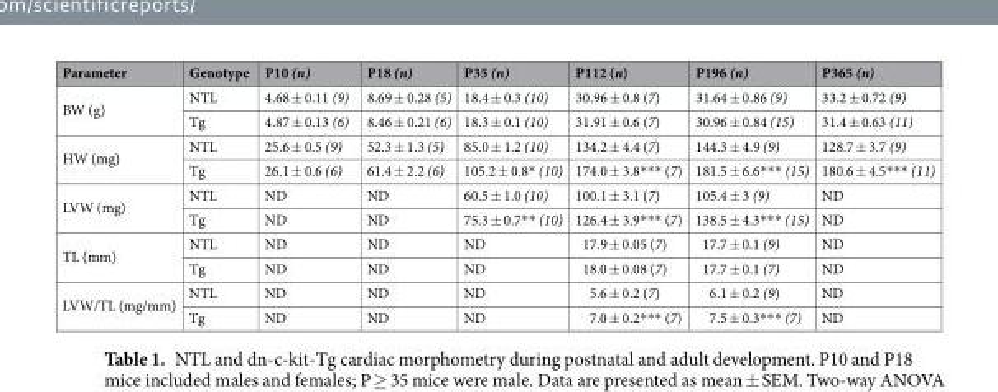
<table><thead><tr><td>Parameter</td><td>Genotype</td><td>P10 (n)</td><td>P18 (n)</td><td>P35 (n)</td><td>P112 (n)</td><td>P196 (n)</td><td>P365 (n)</td></tr></thead><tbody><tr><td rowspan="2">BW (g)</td><td>NTL</td><td>4.68 ± 0.11 (9)</td><td>8.69 ± 0.28 (5)</td><td>18.4 ± 0.3 (10)</td><td>30.96 ± 0.8 (7)</td><td>31.64 ± 0.86 (9)</td><td>33.2 ± 0.72 (9)</td></tr><tr><td>Tg</td><td>4.87 ± 0.13 (6)</td><td>8.46 ± 0.21 (6)</td><td>18.3 ± 0.1 (10)</td><td>31.91 ± 0.6 (7)</td><td>30.96 ± 0.84 (15)</td><td>31.4 ± 0.63 (11)</td></tr><tr><td rowspan="2">HW (mg)</td><td>NTL</td><td>25.6 ± 0.5 (9)</td><td>52.3 ± 1.3 (5)</td><td>85.0 ± 1.2 (10)</td><td>134.2 ± 4.4 (7)</td><td>144.3 ± 4.9 (9)</td><td>128.7 ± 3.7 (9)</td></tr><tr><td>Tg</td><td>26.1 ± 0.6 (6)</td><td>61.4 ± 2.2 (6)</td><td>105.2 ± 0.8* (10)</td><td>174.0 ± 3.8*** (7)</td><td>181.5 ± 6.6*** (15)</td><td>180.6 ± 4.5*** (11)</td></tr><tr><td rowspan="2">LVW (mg)</td><td>NTL</td><td>ND</td><td>ND</td><td>60.5 ± 1.0 (10)</td><td>100.1 ± 3.1 (7)</td><td>105.4 ± 3 (9)</td><td>ND</td></tr><tr><td>Tg</td><td>ND</td><td>ND</td><td>75.3 ± 0.7** (10)</td><td>126.4 ± 3.9*** (7)</td><td>138.5 ± 4.3*** (15)</td><td>ND</td></tr><tr><td rowspan="2">TL (mm)</td><td>NTL</td><td>ND</td><td>ND</td><td>ND</td><td>17.9 ± 0.05 (7)</td><td>17.7 ± 0.1 (9)</td><td>ND</td></tr><tr><td>Tg</td><td>ND</td><td>ND</td><td>ND</td><td>18.0 ± 0.08 (7)</td><td>17.7 ± 0.1 (7)</td><td>ND</td></tr><tr><td rowspan="2">LVW/TL (mg/mm)</td><td>NTL</td><td>ND</td><td>ND</td><td>ND</td><td>5.6 ± 0.2 (7)</td><td>6.1 ± 0.2 (9)</td><td>ND</td></tr><tr><td>Tg</td><td>ND</td><td>ND</td><td>ND</td><td>7.0 ± 0.2*** (7)</td><td>7.5 ± 0.3*** (7)</td><td>ND</td></tr></tbody></table>